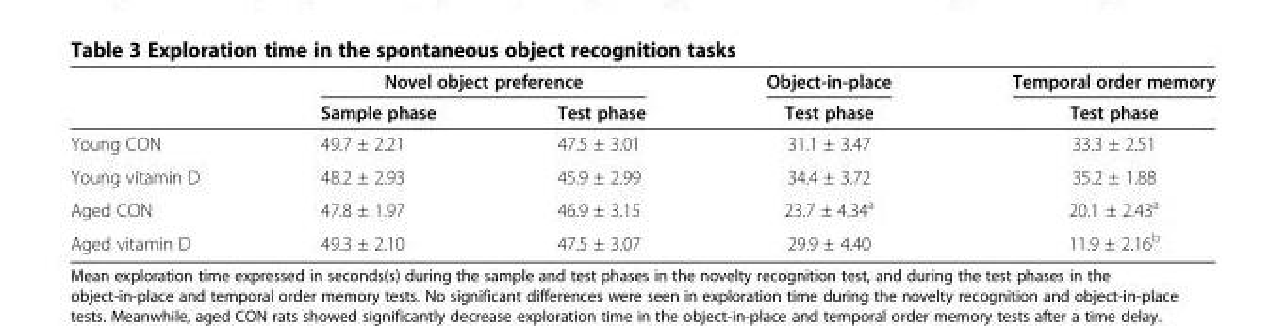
<table><thead><tr><td rowspan="2"></td><td colspan="2">Novel object preference</td><td rowspan="2">Object-in-place Test phase</td><td rowspan="2">Temporal order memory Test phase</td></tr><tr><td>Sample phase</td><td>Test phase</td></tr></thead><tbody><tr><td>Young CON</td><td>49.7 ± 2.21</td><td>47.5 ± 3.01</td><td>31.1 ± 3.47</td><td>33.3 ± 2.51</td></tr><tr><td>Young vitamin D</td><td>48.2 ± 2.93</td><td>45.9 ± 2.99</td><td>34.4 ± 3.72</td><td>35.2 ± 1.88</td></tr><tr><td>Aged CON</td><td>47.8 ± 1.97</td><td>46.9 ± 3.15</td><td>23.7 ± 4.34<sup>a</sup></td><td>20.1 ± 2.43<sup>a</sup></td></tr><tr><td>Aged vitamin D</td><td>49.3 ± 2.10</td><td>47.5 ± 3.07</td><td>29.9 ± 4.40</td><td>11.9 ± 2.16<sup>b</sup></td></tr></tbody></table>